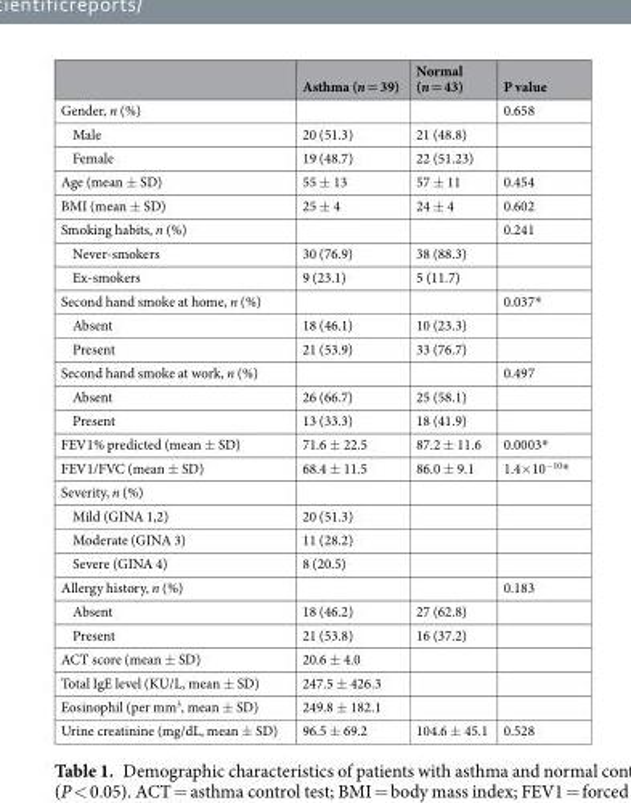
<table><thead><tr><td></td><td>Asthma (n = 39)</td><td>Normal (n = 43)</td><td>P value</td></tr></thead><tbody><tr><td>Gender, n (%)</td><td></td><td></td><td>0.658</td></tr><tr><td>Male</td><td>20 (51.3)</td><td>21 (48.8)</td><td></td></tr><tr><td>Female</td><td>19 (48.7)</td><td>22 (51.23)</td><td></td></tr><tr><td>Age (mean ± SD)</td><td>55 ± 13</td><td>57 ± 11</td><td>0.454</td></tr><tr><td>BMI (mean ± SD)</td><td>25 ± 4</td><td>24 ± 4</td><td>0.602</td></tr><tr><td>Smoking habits, n (%)</td><td></td><td></td><td>0.241</td></tr><tr><td>Never-smokers</td><td>30 (76.9)</td><td>38 (88.3)</td><td></td></tr><tr><td>Ex-smokers</td><td>9 (23.1)</td><td>5 (11.7)</td><td></td></tr><tr><td>Second hand smoke at home, n (%)</td><td></td><td></td><td>0.037*</td></tr><tr><td>Absent</td><td>18 (46.1)</td><td>10 (23.3)</td><td></td></tr><tr><td>Present</td><td>21 (53.9)</td><td>33 (76.7)</td><td></td></tr><tr><td>Second hand smoke at work, n (%)</td><td></td><td></td><td>0.497</td></tr><tr><td>Absent</td><td>26 (66.7)</td><td>25 (58.1)</td><td></td></tr><tr><td>Present</td><td>13 (33.3)</td><td>18 (41.9)</td><td></td></tr><tr><td>FEV1% predicted (mean ± SD)</td><td>71.6 ± 22.5</td><td>87.2 ± 11.6</td><td>0.0003*</td></tr><tr><td>FEV1/FVC (mean ± SD)</td><td>68.4 ± 11.5</td><td>86.0 ± 9.1</td><td>1.4×10<sup>−10</sup>*</td></tr><tr><td colspan="4">Severity, n (%)</td></tr><tr><td>Mild (GINA 1,2)</td><td>20 (51.3)</td><td></td><td></td></tr><tr><td>Moderate (GINA 3)</td><td>11 (28.2)</td><td></td><td></td></tr><tr><td>Severe (GINA 4)</td><td>8 (20.5)</td><td></td><td></td></tr><tr><td>Allergy history, n (%)</td><td></td><td></td><td>0.183</td></tr><tr><td>Absent</td><td>18 (46.2)</td><td>27 (62.8)</td><td></td></tr><tr><td>Present</td><td>21 (53.8)</td><td>16 (37.2)</td><td></td></tr><tr><td>ACT score (mean ± SD)</td><td>20.6 ± 4.0</td><td></td><td></td></tr><tr><td>Total IgE level (KU/L, mean ± SD)</td><td>247.5 ± 426.3</td><td></td><td></td></tr><tr><td>Eosinophil (per mm<sup>3</sup>, mean ± SD)</td><td>249.8 ± 182.1</td><td></td><td></td></tr><tr><td>Urine creatinine (mg/dL, mean ± SD)</td><td>96.5 ± 69.2</td><td>104.6 ± 45.1</td><td>0.528</td></tr></tbody></table>